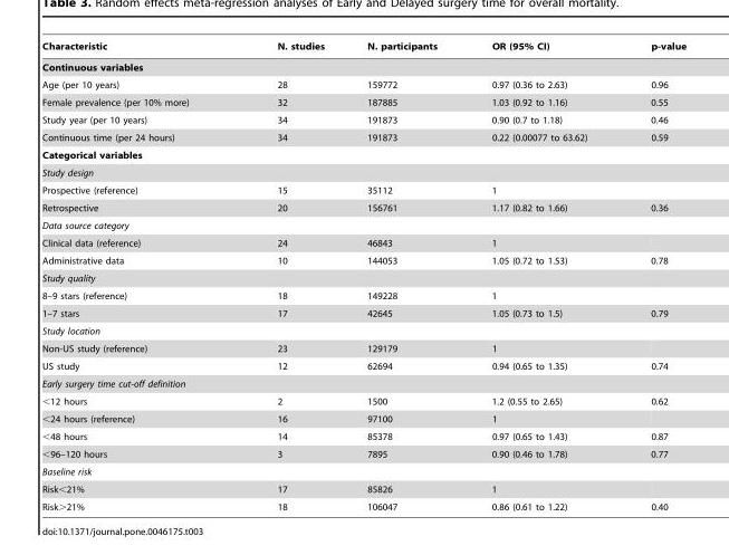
<table><thead><tr><td>Characteristic</td><td>N. studies</td><td>N. participants</td><td>OR (95% CI)</td><td>p-value</td></tr></thead><tbody><tr><td colspan="5">Continuous variables</td></tr><tr><td>Age (per 10 years)</td><td>28</td><td>159772</td><td>0.97 (0.36 to 2.63)</td><td>0.96</td></tr><tr><td>Female prevalence (per 10% more)</td><td>32</td><td>187885</td><td>1.03 (0.92 to 1.16)</td><td>0.55</td></tr><tr><td>Study year (per 10 years)</td><td>34</td><td>191873</td><td>0.90 (0.7 to 1.18)</td><td>0.46</td></tr><tr><td>Continuous time (per 24 hours)</td><td>34</td><td>191873</td><td>0.22 (0.00077 to 63.62)</td><td>0.59</td></tr><tr><td colspan="5">Categorical variables</td></tr><tr><td colspan="5">Study design</td></tr><tr><td>Prospective (reference)</td><td>15</td><td>35112</td><td>1</td><td></td></tr><tr><td>Retrospective</td><td>20</td><td>156761</td><td>1.17 (0.82 to 1.66)</td><td>0.36</td></tr><tr><td colspan="5">Data source category</td></tr><tr><td>Clinical data (reference)</td><td>24</td><td>46843</td><td>1</td><td></td></tr><tr><td>Administrative data</td><td>10</td><td>144053</td><td>1.05 (0.72 to 1.53)</td><td>0.78</td></tr><tr><td colspan="5">Study quality</td></tr><tr><td>8–9 stars (reference)</td><td>18</td><td>149228</td><td>1</td><td></td></tr><tr><td>1–7 stars</td><td>17</td><td>42645</td><td>1.05 (0.73 to 1.5)</td><td>0.79</td></tr><tr><td colspan="5">Study location</td></tr><tr><td>Non-US study (reference)</td><td>23</td><td>129179</td><td>1</td><td></td></tr><tr><td>US study</td><td>12</td><td>62694</td><td>0.94 (0.65 to 1.35)</td><td>0.74</td></tr><tr><td colspan="5">Early surgery time cut-off definition</td></tr><tr><td>&lt;12 hours</td><td>2</td><td>1500</td><td>1.2 (0.55 to 2.65)</td><td>0.62</td></tr><tr><td>&lt;24 hours (reference)</td><td>16</td><td>97100</td><td>1</td><td></td></tr><tr><td>&lt;48 hours</td><td>14</td><td>85378</td><td>0.97 (0.65 to 1.43)</td><td>0.87</td></tr><tr><td>&lt;96–120 hours</td><td>3</td><td>7895</td><td>0.90 (0.46 to 1.78)</td><td>0.77</td></tr><tr><td colspan="5">Baseline risk</td></tr><tr><td>Risk&lt;21%</td><td>17</td><td>85826</td><td>1</td><td></td></tr><tr><td>Risk&gt;21%</td><td>18</td><td>106047</td><td>0.86 (0.61 to 1.22)</td><td>0.40</td></tr></tbody></table>